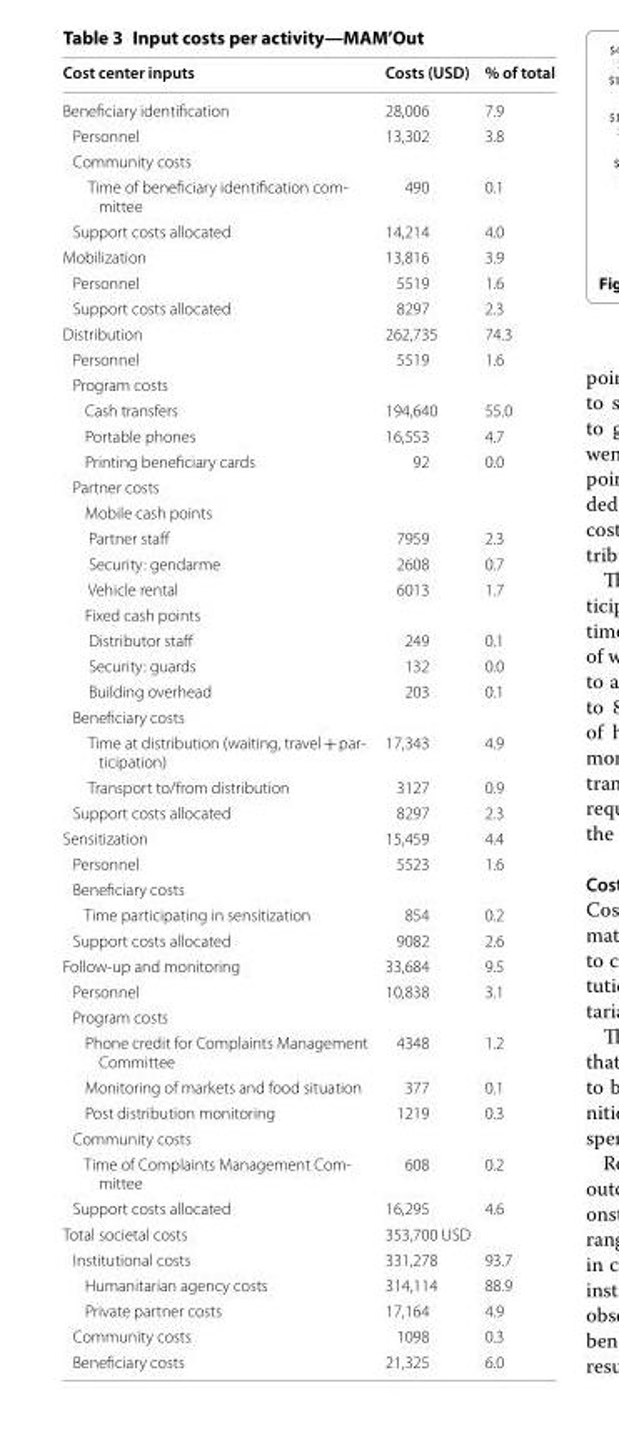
<table><thead><tr><td>Cost center inputs</td><td>Costs (USD)</td><td>% of total</td></tr></thead><tbody><tr><td>Beneficiary identification</td><td>28,006</td><td>7.9</td></tr><tr><td>Personnel</td><td>13,302</td><td>3.8</td></tr><tr><td colspan="3">Community costs</td></tr><tr><td>Time of beneficiary identification com‑ mittee</td><td>490</td><td>0.1</td></tr><tr><td>Support costs allocated</td><td>14,214</td><td>4.0</td></tr><tr><td>Mobilization</td><td>13,816</td><td>3.9</td></tr><tr><td>Personnel</td><td>5519</td><td>1.6</td></tr><tr><td>Support costs allocated</td><td>8297</td><td>2.3</td></tr><tr><td>Distribution</td><td>262,735</td><td>74.3</td></tr><tr><td>Personnel</td><td>5519</td><td>1.6</td></tr><tr><td colspan="3">Program costs</td></tr><tr><td>Cash transfers</td><td>194,640</td><td>55.0</td></tr><tr><td>Portable phones</td><td>16,553</td><td>4.7</td></tr><tr><td>Printing beneficiary cards</td><td>92</td><td>0.0</td></tr><tr><td colspan="3">Partner costs</td></tr><tr><td colspan="3">Mobile cash points</td></tr><tr><td>Partner staff</td><td>7959</td><td>2.3</td></tr><tr><td>Security: gendarme</td><td>2608</td><td>0.7</td></tr><tr><td>Vehicle rental</td><td>6013</td><td>1.7</td></tr><tr><td colspan="3">Fixed cash points</td></tr><tr><td>Distributor staff</td><td>249</td><td>0.1</td></tr><tr><td>Security: guards</td><td>132</td><td>0.0</td></tr><tr><td>Building overhead</td><td>203</td><td>0.1</td></tr><tr><td colspan="3">Beneficiary costs</td></tr><tr><td>Time at distribution (waiting, travel + par‑ ticipation)</td><td>17,343</td><td>4.9</td></tr><tr><td>Transport to/from distribution</td><td>3127</td><td>0.9</td></tr><tr><td>Support costs allocated</td><td>8297</td><td>2.3</td></tr><tr><td>Sensitization</td><td>15,459</td><td>4.4</td></tr><tr><td>Personnel</td><td>5523</td><td>1.6</td></tr><tr><td colspan="3">Beneficiary costs</td></tr><tr><td>Time participating in sensitization</td><td>854</td><td>0.2</td></tr><tr><td>Support costs allocated</td><td>9082</td><td>2.6</td></tr><tr><td>Follow‑up and monitoring</td><td>33,684</td><td>9.5</td></tr><tr><td>Personnel</td><td>10,838</td><td>3.1</td></tr><tr><td colspan="3">Program costs</td></tr><tr><td>Phone credit for Complaints Management Committee</td><td>4348</td><td>1.2</td></tr><tr><td>Monitoring of markets and food situation</td><td>377</td><td>0.1</td></tr><tr><td>Post distribution monitoring</td><td>1219</td><td>0.3</td></tr><tr><td colspan="3">Community costs</td></tr><tr><td>Time of Complaints Management Com‑ mittee</td><td>608</td><td>0.2</td></tr><tr><td>Support costs allocated</td><td>16,295</td><td>4.6</td></tr><tr><td>Total societal costs</td><td>353,700 USD</td><td></td></tr><tr><td>Institutional costs</td><td>331,278</td><td>93.7</td></tr><tr><td>Humanitarian agency costs</td><td>314,114</td><td>88.9</td></tr><tr><td>Private partner costs</td><td>17,164</td><td>4.9</td></tr><tr><td>Community costs</td><td>1098</td><td>0.3</td></tr><tr><td>Beneficiary costs</td><td>21,325</td><td>6.0</td></tr></tbody></table>